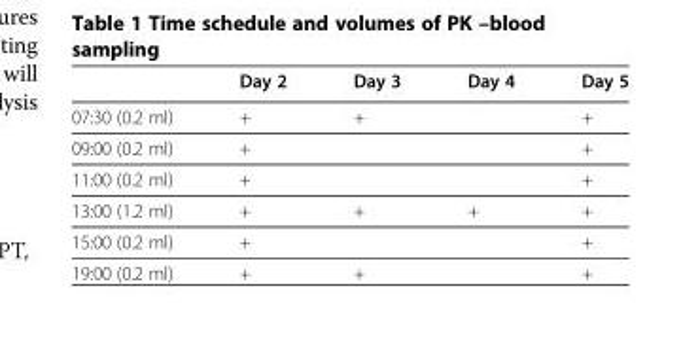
<table><thead><tr><td></td><td>Day 2</td><td>Day 3</td><td>Day 4</td><td>Day 5</td></tr></thead><tbody><tr><td>07:30 (0.2 ml)</td><td>+</td><td>+</td><td></td><td>+</td></tr><tr><td>09:00 (0.2 ml)</td><td>+</td><td></td><td></td><td>+</td></tr><tr><td>11:00 (0.2 ml)</td><td>+</td><td></td><td></td><td>+</td></tr><tr><td>13:00 (1.2 ml)</td><td>+</td><td>+</td><td>+</td><td>+</td></tr><tr><td>15:00 (0.2 ml)</td><td>+</td><td></td><td></td><td>+</td></tr><tr><td>19:00 (0.2 ml)</td><td>+</td><td>+</td><td></td><td>+</td></tr></tbody></table>